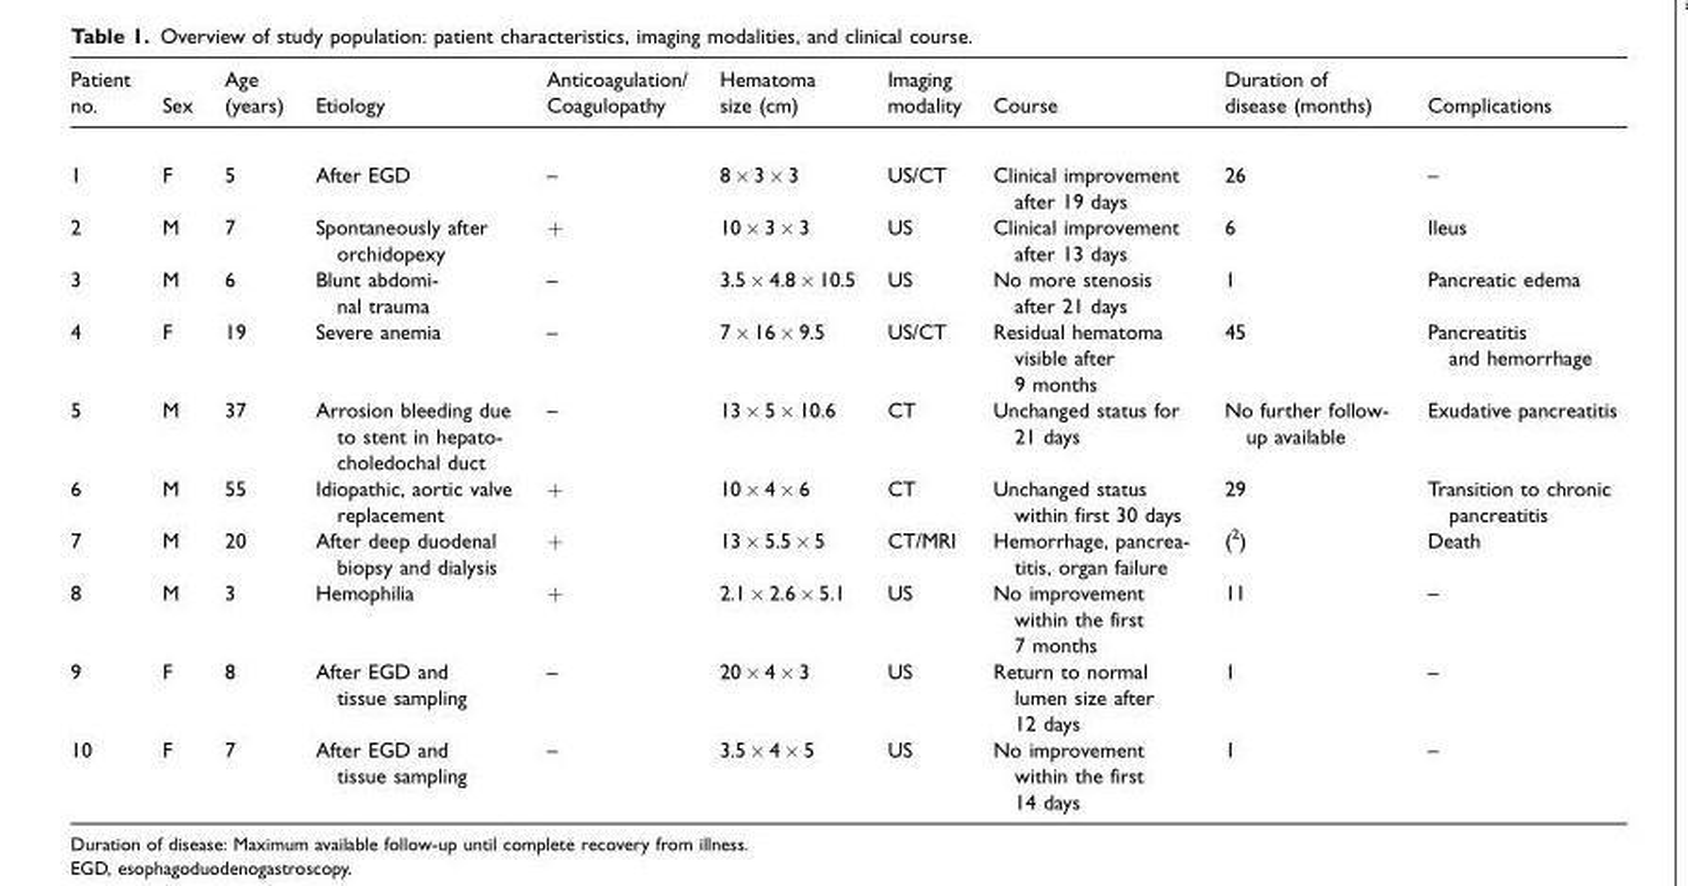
<table><thead><tr><td>Patient no.</td><td>Sex</td><td>Age (years)</td><td>Etiology</td><td>Anticoagulation/ Coagulopathy</td><td>Hematoma size (cm)</td><td>Imaging modality</td><td>Course</td><td>Duration of disease (months)</td><td>Complications</td></tr></thead><tbody><tr><td>1</td><td>F</td><td>5</td><td>After EGD</td><td>–</td><td>8 × 3 × 3</td><td>US/CT</td><td>Clinical improvement after 19 days</td><td>26</td><td>–</td></tr><tr><td>2</td><td>M</td><td>7</td><td>Spontaneously after orchidopexy</td><td>+</td><td>10 × 3 × 3</td><td>US</td><td>Clinical improvement after 13 days</td><td>6</td><td>Ileus</td></tr><tr><td>3</td><td>M</td><td>6</td><td>Blunt abdomi- nal trauma</td><td>–</td><td>3.5 × 4.8 × 10.5</td><td>US</td><td>No more stenosis after 21 days</td><td>1</td><td>Pancreatic edema</td></tr><tr><td>4</td><td>F</td><td>19</td><td>Severe anemia</td><td>–</td><td>7 × 16 × 9.5</td><td>US/CT</td><td>Residual hematoma visible after 9 months</td><td>45</td><td>Pancreatitis and hemorrhage</td></tr><tr><td>5</td><td>M</td><td>37</td><td>Arrosion bleeding due to stent in hepato- choledochal duct</td><td>–</td><td>13 × 5 × 10.6</td><td>CT</td><td>Unchanged status for 21 days</td><td>No further follow- up available</td><td>Exudative pancreatitis</td></tr><tr><td>6</td><td>M</td><td>55</td><td>Idiopathic, aortic valve replacement</td><td>+</td><td>10 × 4 × 6</td><td>CT</td><td>Unchanged status within first 30 days</td><td>29</td><td>Transition to chronic pancreatitis</td></tr><tr><td>7</td><td>M</td><td>20</td><td>After deep duodenal biopsy and dialysis</td><td>+</td><td>13 × 5.5 × 5</td><td>CT/MRI</td><td>Hemorrhage, pancrea- titis, organ failure</td><td>(<sup>2</sup>)</td><td>Death</td></tr><tr><td>8</td><td>M</td><td>3</td><td>Hemophilia</td><td>+</td><td>2.1 × 2.6 × 5.1</td><td>US</td><td>No improvement within the first 7 months</td><td>11</td><td>–</td></tr><tr><td>9</td><td>F</td><td>8</td><td>After EGD and tissue sampling</td><td>–</td><td>20 × 4 × 3</td><td>US</td><td>Return to normal lumen size after 12 days</td><td>1</td><td>–</td></tr><tr><td>10</td><td>F</td><td>7</td><td>After EGD and tissue sampling</td><td>–</td><td>3.5 × 4 × 5</td><td>US</td><td>No improvement within the first 14 days</td><td>1</td><td>–</td></tr></tbody></table>